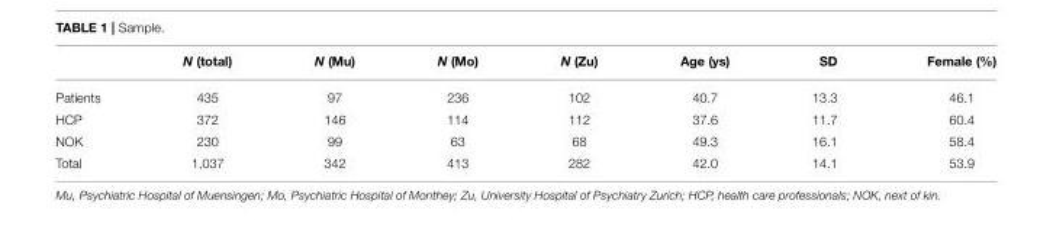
<table><thead><tr><td></td><td>N (total)</td><td>N (Mu)</td><td>N (Mo)</td><td>N (Zu)</td><td>Age (ys)</td><td>SD</td><td>Female (%)</td></tr></thead><tbody><tr><td>Patients</td><td>435</td><td>97</td><td>236</td><td>102</td><td>40.7</td><td>13.3</td><td>46.1</td></tr><tr><td>HCP</td><td>372</td><td>146</td><td>114</td><td>112</td><td>37.6</td><td>11.7</td><td>60.4</td></tr><tr><td>NOK</td><td>230</td><td>99</td><td>63</td><td>68</td><td>49.3</td><td>16.1</td><td>58.4</td></tr><tr><td>Total</td><td>1,037</td><td>342</td><td>413</td><td>282</td><td>42.0</td><td>14.1</td><td>53.9</td></tr></tbody></table>